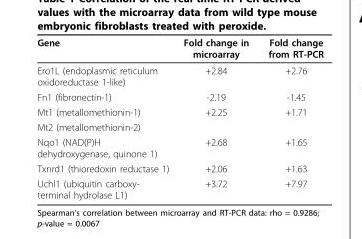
<table><thead><tr><td>Gene</td><td>Fold change in microarray</td><td>Fold change from RT-PCR</td></tr></thead><tbody><tr><td>Ero1L (endoplasmic reticulum oxidoreductase 1-like)</td><td>+2.84</td><td>+2.76</td></tr><tr><td>Fn1 (fibronectin-1)</td><td>-2.19</td><td>-1.45</td></tr><tr><td>Mt1 (metallomethionin-1)</td><td>+2.25</td><td>+1.71</td></tr><tr><td colspan="3">Mt2 (metallomethionin-2)</td></tr><tr><td>Nqo1 (NAD(P)H dehydroxygenase, quinone 1)</td><td>+2.68</td><td>+1.65</td></tr><tr><td>Txnrd1 (thioredoxin reductase 1)</td><td>+2.06</td><td>+1.63</td></tr><tr><td>Uchl1 (ubiquitin carboxy- terminal hydrolase L1)</td><td>+3.72</td><td>+7.97</td></tr></tbody></table>